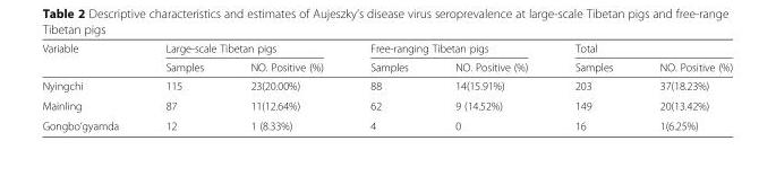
<table><thead><tr><td rowspan="2">Variable</td><td colspan="2">Large-scale Tibetan pigs</td><td colspan="2">Free-ranging Tibetan pigs</td><td colspan="2">Total</td></tr><tr><td>Samples</td><td>NO. Positive (%)</td><td>Samples</td><td>NO. Positive (%)</td><td>Samples</td><td>NO. Positive (%)</td></tr></thead><tbody><tr><td>Nyingchi</td><td>115</td><td>23(20.00%)</td><td>88</td><td>14(15.91%)</td><td>203</td><td>37(18.23%)</td></tr><tr><td>Mainling</td><td>87</td><td>11(12.64%)</td><td>62</td><td>9 (14.52%)</td><td>149</td><td>20(13.42%)</td></tr><tr><td>Gongbo’gyamda</td><td>12</td><td>1 (8.33%)</td><td>4</td><td>0</td><td>16</td><td>1(6.25%)</td></tr></tbody></table>